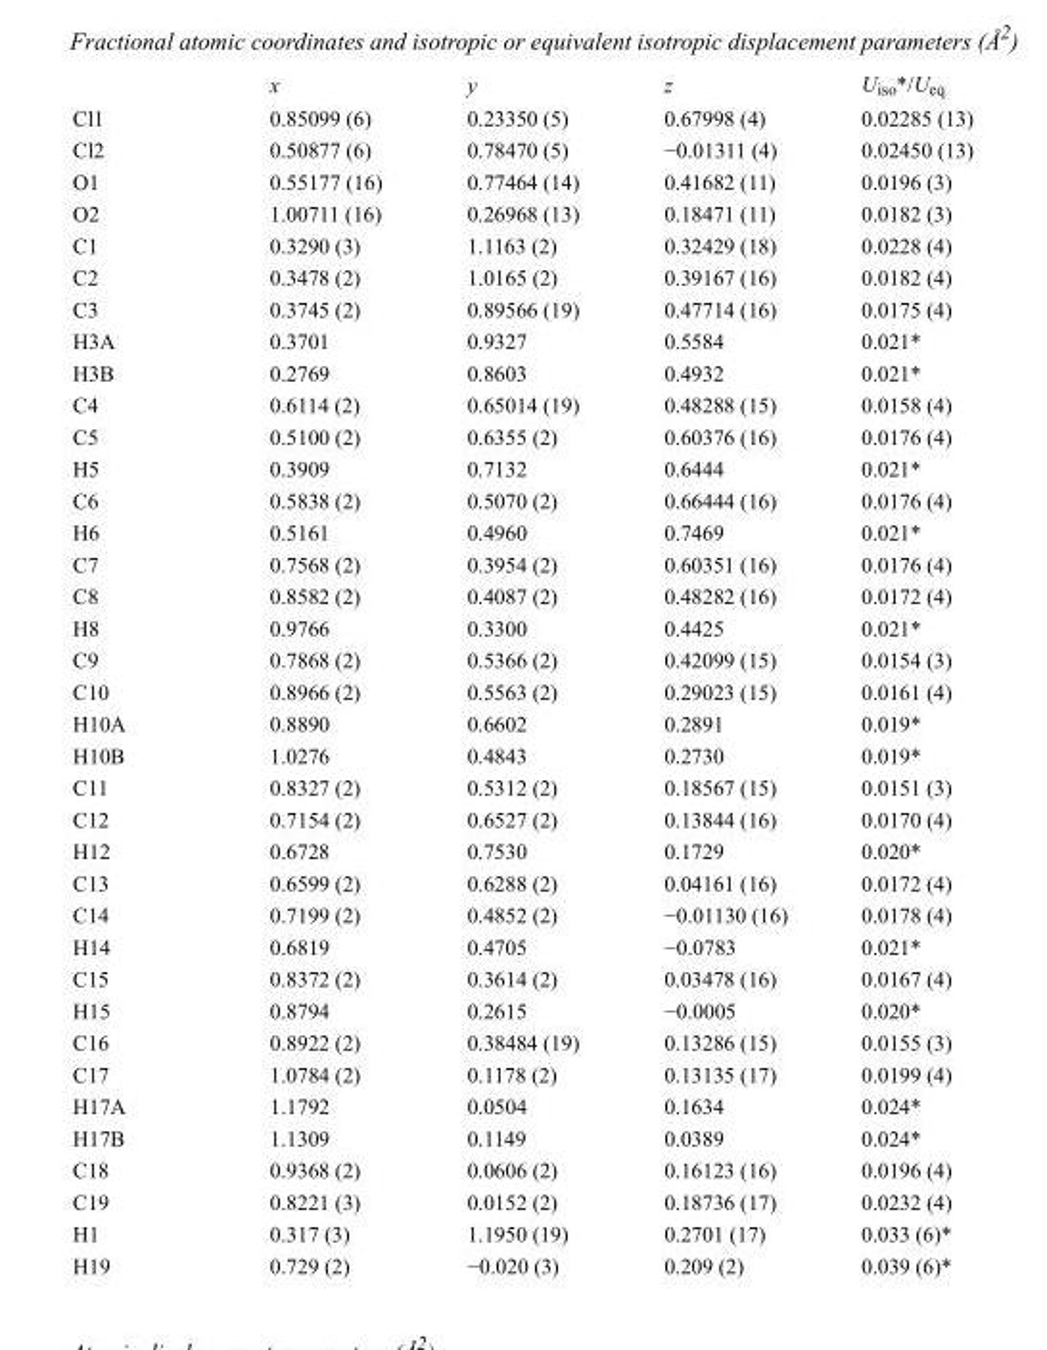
<table><thead><tr><td></td><td>x</td><td>y</td><td>z</td><td>U<sub>iso</sub>*/U<sub>eq</sub></td></tr></thead><tbody><tr><td>Cl1</td><td>0.85099 (6)</td><td>0.23350 (5)</td><td>0.67998 (4)</td><td>0.02285 (13)</td></tr><tr><td>Cl2</td><td>0.50877 (6)</td><td>0.78470 (5)</td><td>−0.01311 (4)</td><td>0.02450 (13)</td></tr><tr><td>O1</td><td>0.55177 (16)</td><td>0.77464 (14)</td><td>0.41682 (11)</td><td>0.0196 (3)</td></tr><tr><td>O2</td><td>1.00711 (16)</td><td>0.26968 (13)</td><td>0.18471 (11)</td><td>0.0182 (3)</td></tr><tr><td>C1</td><td>0.3290 (3)</td><td>1.1163 (2)</td><td>0.32429 (18)</td><td>0.0228 (4)</td></tr><tr><td>C2</td><td>0.3478 (2)</td><td>1.0165 (2)</td><td>0.39167 (16)</td><td>0.0182 (4)</td></tr><tr><td>C3</td><td>0.3745 (2)</td><td>0.89566 (19)</td><td>0.47714 (16)</td><td>0.0175 (4)</td></tr><tr><td>H3A</td><td>0.3701</td><td>0.9327</td><td>0.5584</td><td>0.021*</td></tr><tr><td>H3B</td><td>0.2769</td><td>0.8603</td><td>0.4932</td><td>0.021*</td></tr><tr><td>C4</td><td>0.6114 (2)</td><td>0.65014 (19)</td><td>0.48288 (15)</td><td>0.0158 (4)</td></tr><tr><td>C5</td><td>0.5100 (2)</td><td>0.6355 (2)</td><td>0.60376 (16)</td><td>0.0176 (4)</td></tr><tr><td>H5</td><td>0.3909</td><td>0.7132</td><td>0.6444</td><td>0.021*</td></tr><tr><td>C6</td><td>0.5838 (2)</td><td>0.5070 (2)</td><td>0.66444 (16)</td><td>0.0176 (4)</td></tr><tr><td>H6</td><td>0.5161</td><td>0.4960</td><td>0.7469</td><td>0.021*</td></tr><tr><td>C7</td><td>0.7568 (2)</td><td>0.3954 (2)</td><td>0.60351 (16)</td><td>0.0176 (4)</td></tr><tr><td>C8</td><td>0.8582 (2)</td><td>0.4087 (2)</td><td>0.48282 (16)</td><td>0.0172 (4)</td></tr><tr><td>H8</td><td>0.9766</td><td>0.3300</td><td>0.4425</td><td>0.021*</td></tr><tr><td>C9</td><td>0.7868 (2)</td><td>0.5366 (2)</td><td>0.42099 (15)</td><td>0.0154 (3)</td></tr><tr><td>C10</td><td>0.8966 (2)</td><td>0.5563 (2)</td><td>0.29023 (15)</td><td>0.0161 (4)</td></tr><tr><td>H10A</td><td>0.8890</td><td>0.6602</td><td>0.2891</td><td>0.019*</td></tr><tr><td>H10B</td><td>1.0276</td><td>0.4843</td><td>0.2730</td><td>0.019*</td></tr><tr><td>C11</td><td>0.8327 (2)</td><td>0.5312 (2)</td><td>0.18567 (15)</td><td>0.0151 (3)</td></tr><tr><td>C12</td><td>0.7154 (2)</td><td>0.6527 (2)</td><td>0.13844 (16)</td><td>0.0170 (4)</td></tr><tr><td>H12</td><td>0.6728</td><td>0.7530</td><td>0.1729</td><td>0.020*</td></tr><tr><td>C13</td><td>0.6599 (2)</td><td>0.6288 (2)</td><td>0.04161 (16)</td><td>0.0172 (4)</td></tr><tr><td>C14</td><td>0.7199 (2)</td><td>0.4852 (2)</td><td>−0.01130 (16)</td><td>0.0178 (4)</td></tr><tr><td>H14</td><td>0.6819</td><td>0.4705</td><td>−0.0783</td><td>0.021*</td></tr><tr><td>C15</td><td>0.8372 (2)</td><td>0.3614 (2)</td><td>0.03478 (16)</td><td>0.0167 (4)</td></tr><tr><td>H15</td><td>0.8794</td><td>0.2615</td><td>−0.0005</td><td>0.020*</td></tr><tr><td>C16</td><td>0.8922 (2)</td><td>0.38484 (19)</td><td>0.13286 (15)</td><td>0.0155 (3)</td></tr><tr><td>C17</td><td>1.0784 (2)</td><td>0.1178 (2)</td><td>0.13135 (17)</td><td>0.0199 (4)</td></tr><tr><td>H17A</td><td>1.1792</td><td>0.0504</td><td>0.1634</td><td>0.024*</td></tr><tr><td>H17B</td><td>1.1309</td><td>0.1149</td><td>0.0389</td><td>0.024*</td></tr><tr><td>C18</td><td>0.9368 (2)</td><td>0.0606 (2)</td><td>0.16123 (16)</td><td>0.0196 (4)</td></tr><tr><td>C19</td><td>0.8221 (3)</td><td>0.0152 (2)</td><td>0.18736 (17)</td><td>0.0232 (4)</td></tr><tr><td>H1</td><td>0.317 (3)</td><td>1.1950 (19)</td><td>0.2701 (17)</td><td>0.033 (6)*</td></tr><tr><td>H19</td><td>0.729 (2)</td><td>−0.020 (3)</td><td>0.209 (2)</td><td>0.039 (6)*</td></tr></tbody></table>